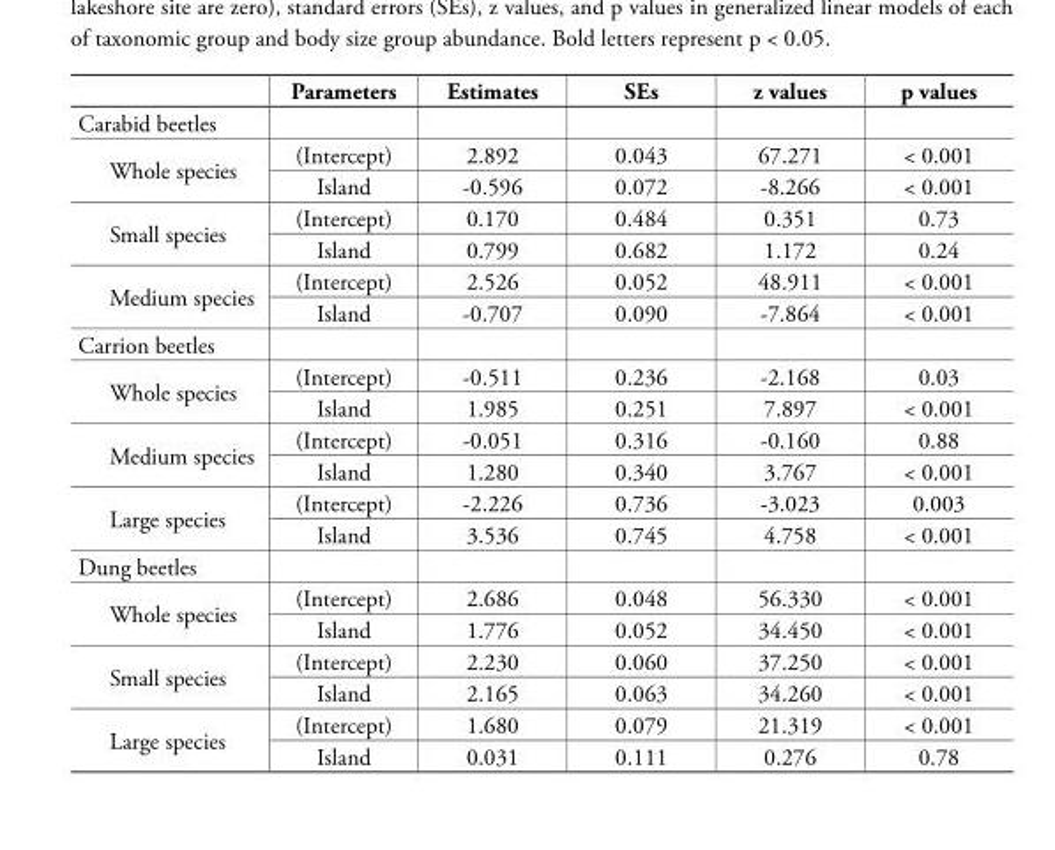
<table><thead><tr><td></td><td>Parameters</td><td>Estimates</td><td>SEs</td><td>z values</td><td>p values</td></tr></thead><tbody><tr><td colspan="6">Carabid beetles</td></tr><tr><td rowspan="2">Whole species</td><td>(Intercept)</td><td>2.892</td><td>0.043</td><td>67.271</td><td>&lt; 0.001</td></tr><tr><td>Island</td><td>-0.596</td><td>0.072</td><td>-8.266</td><td>&lt; 0.001</td></tr><tr><td rowspan="2">Small species</td><td>(Intercept)</td><td>0.170</td><td>0.484</td><td>0.351</td><td>0.73</td></tr><tr><td>Island</td><td>0.799</td><td>0.682</td><td>1.172</td><td>0.24</td></tr><tr><td rowspan="2">Medium species</td><td>(Intercept)</td><td>2.526</td><td>0.052</td><td>48.911</td><td>&lt; 0.001</td></tr><tr><td>Island</td><td>-0.707</td><td>0.090</td><td>-7.864</td><td>&lt; 0.001</td></tr><tr><td colspan="6">Carrion beetles</td></tr><tr><td rowspan="2">Whole species</td><td>(Intercept)</td><td>-0.511</td><td>0.236</td><td>-2.168</td><td>0.03</td></tr><tr><td>Island</td><td>1.985</td><td>0.251</td><td>7.897</td><td>&lt; 0.001</td></tr><tr><td rowspan="2">Medium species</td><td>(Intercept)</td><td>-0.051</td><td>0.316</td><td>-0.160</td><td>0.88</td></tr><tr><td>Island</td><td>1.280</td><td>0.340</td><td>3.767</td><td>&lt; 0.001</td></tr><tr><td rowspan="2">Large species</td><td>(Intercept)</td><td>-2.226</td><td>0.736</td><td>-3.023</td><td>0.003</td></tr><tr><td>Island</td><td>3.536</td><td>0.745</td><td>4.758</td><td>&lt; 0.001</td></tr><tr><td colspan="6">Dung beetles</td></tr><tr><td rowspan="2">Whole species</td><td>(Intercept)</td><td>2.686</td><td>0.048</td><td>56.330</td><td>&lt; 0.001</td></tr><tr><td>Island</td><td>1.776</td><td>0.052</td><td>34.450</td><td>&lt; 0.001</td></tr><tr><td rowspan="2">Small species</td><td>(Intercept)</td><td>2.230</td><td>0.060</td><td>37.250</td><td>&lt; 0.001</td></tr><tr><td>Island</td><td>2.165</td><td>0.063</td><td>34.260</td><td>&lt; 0.001</td></tr><tr><td rowspan="2">Large species</td><td>(Intercept)</td><td>1.680</td><td>0.079</td><td>21.319</td><td>&lt; 0.001</td></tr><tr><td>Island</td><td>0.031</td><td>0.111</td><td>0.276</td><td>0.78</td></tr></tbody></table>